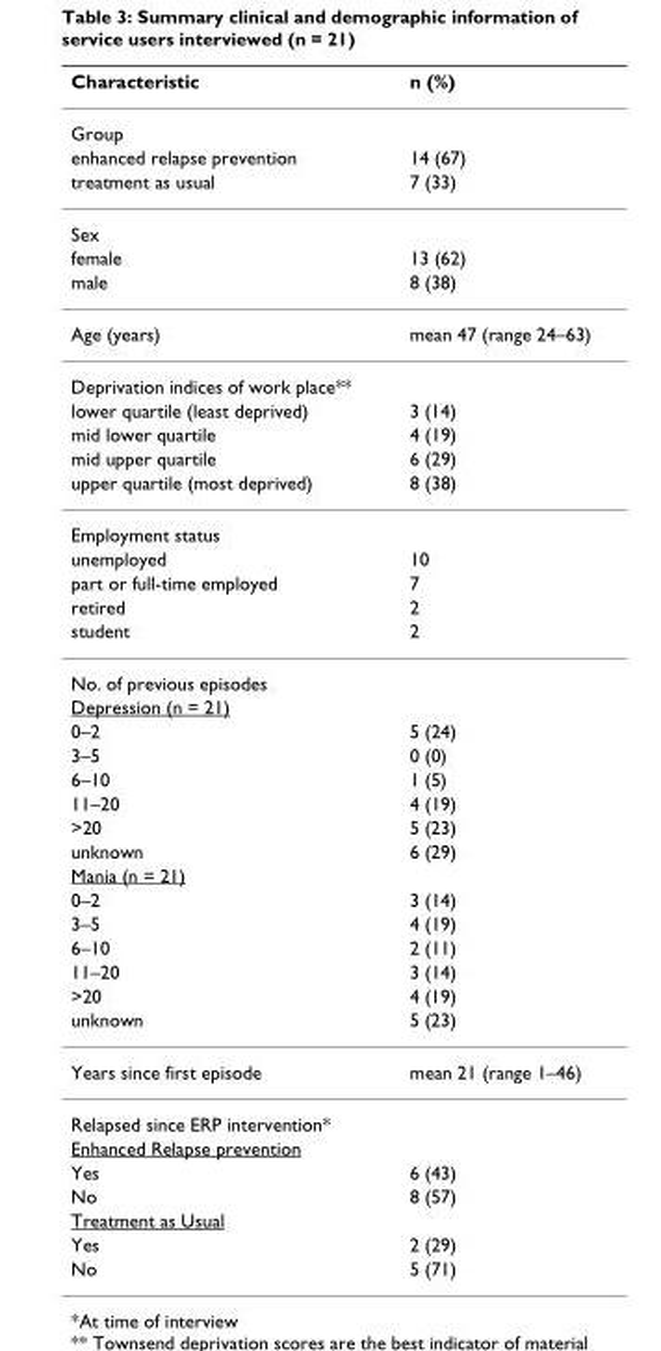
<table><thead><tr><td>Characteristic</td><td>n (%)</td></tr></thead><tbody><tr><td colspan="2">Group</td></tr><tr><td>enhanced relapse prevention</td><td>14 (67)</td></tr><tr><td>treatment as usual</td><td>7 (33)</td></tr><tr><td colspan="2">Sex</td></tr><tr><td>female</td><td>13 (62)</td></tr><tr><td>male</td><td>8 (38)</td></tr><tr><td>Age (years)</td><td>mean 47 (range 24–63)</td></tr><tr><td colspan="2">Deprivation indices of work place**</td></tr><tr><td>lower quartile (least deprived)</td><td>3 (14)</td></tr><tr><td>mid lower quartile</td><td>4 (19)</td></tr><tr><td>mid upper quartile</td><td>6 (29)</td></tr><tr><td>upper quartile (most deprived)</td><td>8 (38)</td></tr><tr><td colspan="2">Employment status</td></tr><tr><td>unemployed</td><td>10</td></tr><tr><td>part or full-time employed</td><td>7</td></tr><tr><td>retired</td><td>2</td></tr><tr><td>student</td><td>2</td></tr><tr><td colspan="2">No. of previous episodes</td></tr><tr><td colspan="2">Depression (n = 21)</td></tr><tr><td>0–2</td><td>5 (24)</td></tr><tr><td>3–5</td><td>0 (0)</td></tr><tr><td>6–10</td><td>1 (5)</td></tr><tr><td>11–20</td><td>4 (19)</td></tr><tr><td>&gt;20</td><td>5 (23)</td></tr><tr><td>unknown</td><td>6 (29)</td></tr><tr><td colspan="2">Mania (n = 21)</td></tr><tr><td>0–2</td><td>3 (14)</td></tr><tr><td>3–5</td><td>4 (19)</td></tr><tr><td>6–10</td><td>2 (11)</td></tr><tr><td>11–20</td><td>3 (14)</td></tr><tr><td>&gt;20</td><td>4 (19)</td></tr><tr><td>unknown</td><td>5 (23)</td></tr><tr><td>Years since first episode</td><td>mean 21 (range 1–46)</td></tr><tr><td colspan="2">Relapsed since ERP intervention*</td></tr><tr><td colspan="2">Enhanced Relapse prevention</td></tr><tr><td>Yes</td><td>6 (43)</td></tr><tr><td>No</td><td>8 (57)</td></tr><tr><td colspan="2">Treatment as Usual</td></tr><tr><td>Yes</td><td>2 (29)</td></tr><tr><td>No</td><td>5 (71)</td></tr></tbody></table>